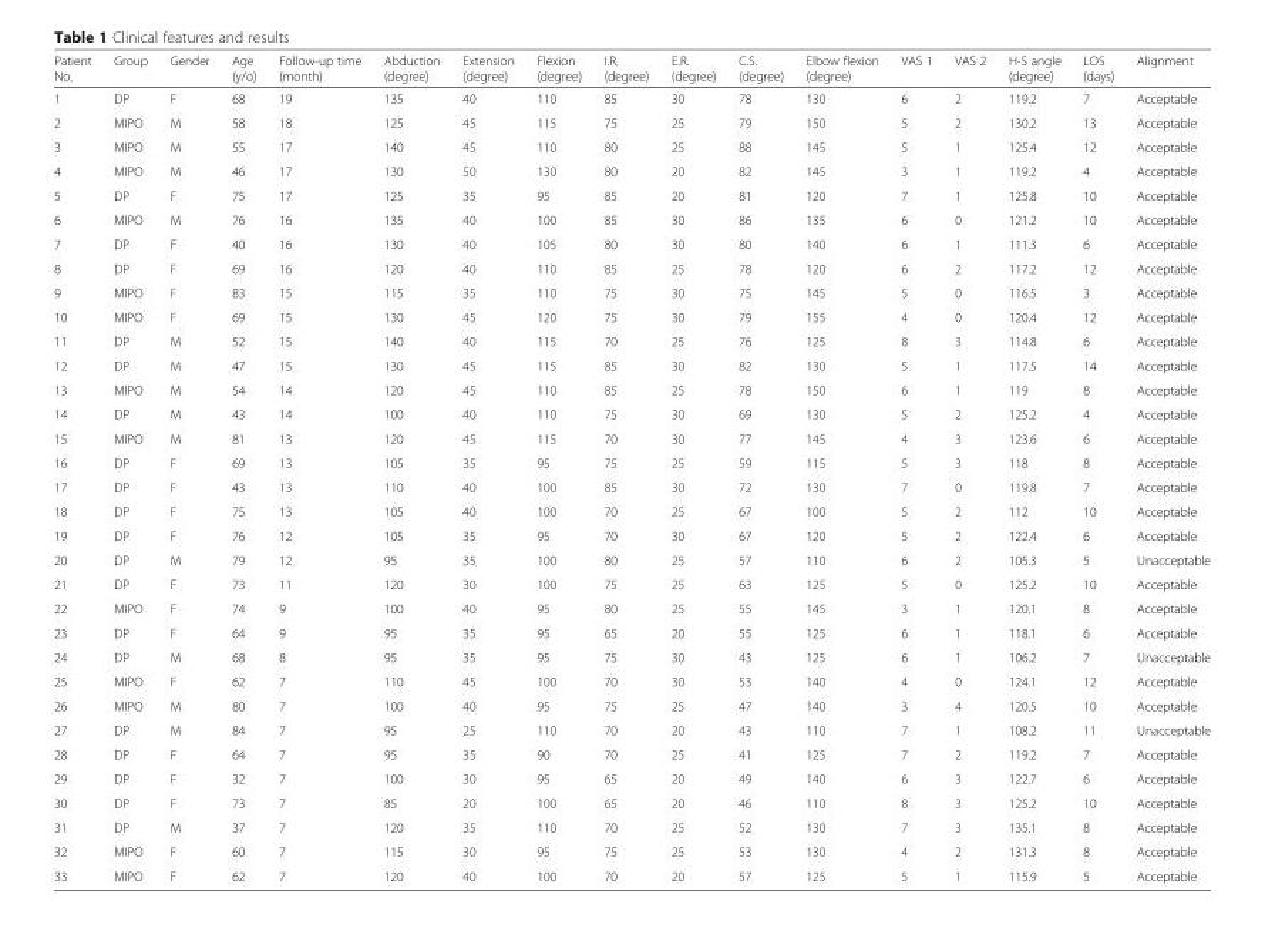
<table><thead><tr><td>Patient No.</td><td>Group</td><td>Gender</td><td>Age (y/o)</td><td>Follow-up time (month)</td><td>Abduction (degree)</td><td>Extension (degree)</td><td>Flexion (degree)</td><td>I.R. (degree)</td><td>E.R. (degree)</td><td>C.S. (degree)</td><td>Elbow flexion (degree)</td><td>VAS 1</td><td>VAS 2</td><td>H-S angle (degree)</td><td>LOS (days)</td><td>Alignment</td></tr></thead><tbody><tr><td>1</td><td>DP</td><td>F</td><td>68</td><td>19</td><td>135</td><td>40</td><td>110</td><td>85</td><td>30</td><td>78</td><td>130</td><td>6</td><td>2</td><td>119.2</td><td>7</td><td>Acceptable</td></tr><tr><td>2</td><td>MIPO</td><td>M</td><td>58</td><td>18</td><td>125</td><td>45</td><td>115</td><td>75</td><td>25</td><td>79</td><td>150</td><td>5</td><td>2</td><td>130.2</td><td>13</td><td>Acceptable</td></tr><tr><td>3</td><td>MIPO</td><td>M</td><td>55</td><td>17</td><td>140</td><td>45</td><td>110</td><td>80</td><td>25</td><td>88</td><td>145</td><td>5</td><td>1</td><td>125.4</td><td>12</td><td>Acceptable</td></tr><tr><td>4</td><td>MIPO</td><td>M</td><td>46</td><td>17</td><td>130</td><td>50</td><td>130</td><td>80</td><td>20</td><td>82</td><td>145</td><td>3</td><td>1</td><td>119.2</td><td>4</td><td>Acceptable</td></tr><tr><td>5</td><td>DP</td><td>F</td><td>75</td><td>17</td><td>125</td><td>35</td><td>95</td><td>85</td><td>20</td><td>81</td><td>120</td><td>7</td><td>1</td><td>125.8</td><td>10</td><td>Acceptable</td></tr><tr><td>6</td><td>MIPO</td><td>M</td><td>76</td><td>16</td><td>135</td><td>40</td><td>100</td><td>85</td><td>30</td><td>86</td><td>135</td><td>6</td><td>0</td><td>121.2</td><td>10</td><td>Acceptable</td></tr><tr><td>7</td><td>DP</td><td>F</td><td>40</td><td>16</td><td>130</td><td>40</td><td>105</td><td>80</td><td>30</td><td>80</td><td>140</td><td>6</td><td>1</td><td>111.3</td><td>6</td><td>Acceptable</td></tr><tr><td>8</td><td>DP</td><td>F</td><td>69</td><td>16</td><td>120</td><td>40</td><td>110</td><td>85</td><td>25</td><td>78</td><td>120</td><td>6</td><td>2</td><td>117.2</td><td>12</td><td>Acceptable</td></tr><tr><td>9</td><td>MIPO</td><td>F</td><td>83</td><td>15</td><td>115</td><td>35</td><td>110</td><td>75</td><td>30</td><td>75</td><td>145</td><td>5</td><td>0</td><td>116.5</td><td>3</td><td>Acceptable</td></tr><tr><td>10</td><td>MIPO</td><td>F</td><td>69</td><td>15</td><td>130</td><td>45</td><td>120</td><td>75</td><td>30</td><td>79</td><td>155</td><td>4</td><td>0</td><td>120.4</td><td>12</td><td>Acceptable</td></tr><tr><td>11</td><td>DP</td><td>M</td><td>52</td><td>15</td><td>140</td><td>40</td><td>115</td><td>70</td><td>25</td><td>76</td><td>125</td><td>8</td><td>3</td><td>114.8</td><td>6</td><td>Acceptable</td></tr><tr><td>12</td><td>DP</td><td>M</td><td>47</td><td>15</td><td>130</td><td>45</td><td>115</td><td>85</td><td>30</td><td>82</td><td>130</td><td>5</td><td>1</td><td>117.5</td><td>14</td><td>Acceptable</td></tr><tr><td>13</td><td>MIPO</td><td>M</td><td>54</td><td>14</td><td>120</td><td>45</td><td>110</td><td>85</td><td>25</td><td>78</td><td>150</td><td>6</td><td>1</td><td>119</td><td>8</td><td>Acceptable</td></tr><tr><td>14</td><td>DP</td><td>M</td><td>43</td><td>14</td><td>100</td><td>40</td><td>110</td><td>75</td><td>30</td><td>69</td><td>130</td><td>5</td><td>2</td><td>125.2</td><td>4</td><td>Acceptable</td></tr><tr><td>15</td><td>MIPO</td><td>M</td><td>81</td><td>13</td><td>120</td><td>45</td><td>115</td><td>70</td><td>30</td><td>77</td><td>145</td><td>4</td><td>3</td><td>123.6</td><td>6</td><td>Acceptable</td></tr><tr><td>16</td><td>DP</td><td>F</td><td>69</td><td>13</td><td>105</td><td>35</td><td>95</td><td>75</td><td>25</td><td>59</td><td>115</td><td>5</td><td>3</td><td>118</td><td>8</td><td>Acceptable</td></tr><tr><td>17</td><td>DP</td><td>F</td><td>43</td><td>13</td><td>110</td><td>40</td><td>100</td><td>85</td><td>30</td><td>72</td><td>130</td><td>7</td><td>0</td><td>119.8</td><td>7</td><td>Acceptable</td></tr><tr><td>18</td><td>DP</td><td>F</td><td>75</td><td>13</td><td>105</td><td>40</td><td>100</td><td>70</td><td>25</td><td>67</td><td>100</td><td>5</td><td>2</td><td>112</td><td>10</td><td>Acceptable</td></tr><tr><td>19</td><td>DP</td><td>F</td><td>76</td><td>12</td><td>105</td><td>35</td><td>95</td><td>70</td><td>30</td><td>67</td><td>120</td><td>5</td><td>2</td><td>122.4</td><td>6</td><td>Acceptable</td></tr><tr><td>20</td><td>DP</td><td>M</td><td>79</td><td>12</td><td>95</td><td>35</td><td>100</td><td>80</td><td>25</td><td>57</td><td>110</td><td>6</td><td>2</td><td>105.3</td><td>5</td><td>Unacceptable</td></tr><tr><td>21</td><td>DP</td><td>F</td><td>73</td><td>11</td><td>120</td><td>30</td><td>100</td><td>75</td><td>25</td><td>63</td><td>125</td><td>5</td><td>0</td><td>125.2</td><td>10</td><td>Acceptable</td></tr><tr><td>22</td><td>MIPO</td><td>F</td><td>74</td><td>9</td><td>100</td><td>40</td><td>95</td><td>80</td><td>25</td><td>55</td><td>145</td><td>3</td><td>1</td><td>120.1</td><td>8</td><td>Acceptable</td></tr><tr><td>23</td><td>DP</td><td>F</td><td>64</td><td>9</td><td>95</td><td>35</td><td>95</td><td>65</td><td>20</td><td>55</td><td>125</td><td>6</td><td>1</td><td>118.1</td><td>6</td><td>Acceptable</td></tr><tr><td>24</td><td>DP</td><td>M</td><td>68</td><td>8</td><td>95</td><td>35</td><td>95</td><td>75</td><td>30</td><td>43</td><td>125</td><td>6</td><td>1</td><td>106.2</td><td>7</td><td>Unacceptable</td></tr><tr><td>25</td><td>MIPO</td><td>F</td><td>62</td><td>7</td><td>110</td><td>45</td><td>100</td><td>70</td><td>30</td><td>53</td><td>140</td><td>4</td><td>0</td><td>124.1</td><td>12</td><td>Acceptable</td></tr><tr><td>26</td><td>MIPO</td><td>M</td><td>80</td><td>7</td><td>100</td><td>40</td><td>95</td><td>75</td><td>25</td><td>47</td><td>140</td><td>3</td><td>4</td><td>120.5</td><td>10</td><td>Acceptable</td></tr><tr><td>27</td><td>DP</td><td>M</td><td>84</td><td>7</td><td>95</td><td>25</td><td>110</td><td>70</td><td>20</td><td>43</td><td>110</td><td>7</td><td>1</td><td>108.2</td><td>11</td><td>Unacceptable</td></tr><tr><td>28</td><td>DP</td><td>F</td><td>64</td><td>7</td><td>95</td><td>35</td><td>90</td><td>70</td><td>25</td><td>41</td><td>125</td><td>7</td><td>2</td><td>119.2</td><td>7</td><td>Acceptable</td></tr><tr><td>29</td><td>DP</td><td>F</td><td>32</td><td>7</td><td>100</td><td>30</td><td>95</td><td>65</td><td>20</td><td>49</td><td>140</td><td>6</td><td>3</td><td>122.7</td><td>6</td><td>Acceptable</td></tr><tr><td>30</td><td>DP</td><td>F</td><td>73</td><td>7</td><td>85</td><td>20</td><td>100</td><td>65</td><td>20</td><td>46</td><td>110</td><td>8</td><td>3</td><td>125.2</td><td>10</td><td>Acceptable</td></tr><tr><td>31</td><td>DP</td><td>M</td><td>37</td><td>7</td><td>120</td><td>35</td><td>110</td><td>70</td><td>25</td><td>52</td><td>130</td><td>7</td><td>3</td><td>135.1</td><td>8</td><td>Acceptable</td></tr><tr><td>32</td><td>MIPO</td><td>F</td><td>60</td><td>7</td><td>115</td><td>30</td><td>95</td><td>75</td><td>25</td><td>53</td><td>130</td><td>4</td><td>2</td><td>131.3</td><td>8</td><td>Acceptable</td></tr><tr><td>33</td><td>MIPO</td><td>F</td><td>62</td><td>7</td><td>120</td><td>40</td><td>100</td><td>70</td><td>20</td><td>57</td><td>125</td><td>5</td><td>1</td><td>115.9</td><td>5</td><td>Acceptable</td></tr></tbody></table>